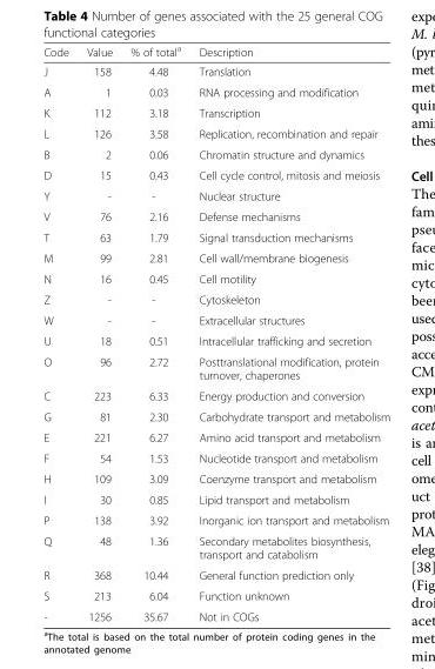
<table><thead><tr><td>Code</td><td>Value</td><td>% of total<sup>a</sup></td><td>Description</td></tr></thead><tbody><tr><td>J</td><td>158</td><td>4.48</td><td>Translation</td></tr><tr><td>A</td><td>1</td><td>0.03</td><td>RNA processing and modification</td></tr><tr><td>K</td><td>112</td><td>3.18</td><td>Transcription</td></tr><tr><td>L</td><td>126</td><td>3.58</td><td>Replication, recombination and repair</td></tr><tr><td>B</td><td>2</td><td>0.06</td><td>Chromatin structure and dynamics</td></tr><tr><td>D</td><td>15</td><td>0.43</td><td>Cell cycle control, mitosis and meiosis</td></tr><tr><td>Y</td><td>-</td><td>-</td><td>Nuclear structure</td></tr><tr><td>V</td><td>76</td><td>2.16</td><td>Defense mechanisms</td></tr><tr><td>T</td><td>63</td><td>1.79</td><td>Signal transduction mechanisms</td></tr><tr><td>M</td><td>99</td><td>2.81</td><td>Cell wall/membrane biogenesis</td></tr><tr><td>N</td><td>16</td><td>0.45</td><td>Cell motility</td></tr><tr><td>Z</td><td>-</td><td>-</td><td>Cytoskeleton</td></tr><tr><td>W</td><td>-</td><td>-</td><td>Extracellular structures</td></tr><tr><td>U</td><td>18</td><td>0.51</td><td>Intracellular trafficking and secretion</td></tr><tr><td>O</td><td>96</td><td>2.72</td><td>Posttranslational modification, protein turnover, chaperones</td></tr><tr><td>C</td><td>223</td><td>6.33</td><td>Energy production and conversion</td></tr><tr><td>G</td><td>81</td><td>2.30</td><td>Carbohydrate transport and metabolism</td></tr><tr><td>E</td><td>221</td><td>6.27</td><td>Amino acid transport and metabolism</td></tr><tr><td>F</td><td>54</td><td>1.53</td><td>Nucleotide transport and metabolism</td></tr><tr><td>H</td><td>109</td><td>3.09</td><td>Coenzyme transport and metabolism</td></tr><tr><td>I</td><td>30</td><td>0.85</td><td>Lipid transport and metabolism</td></tr><tr><td>P</td><td>138</td><td>3.92</td><td>Inorganic ion transport and metabolism</td></tr><tr><td>Q</td><td>48</td><td>1.36</td><td>Secondary metabolites biosynthesis, transport and catabolism</td></tr><tr><td>R</td><td>368</td><td>10.44</td><td>General function prediction only</td></tr><tr><td>S</td><td>213</td><td>6.04</td><td>Function unknown</td></tr><tr><td>-</td><td>1256</td><td>35.67</td><td>Not in COGs</td></tr></tbody></table>